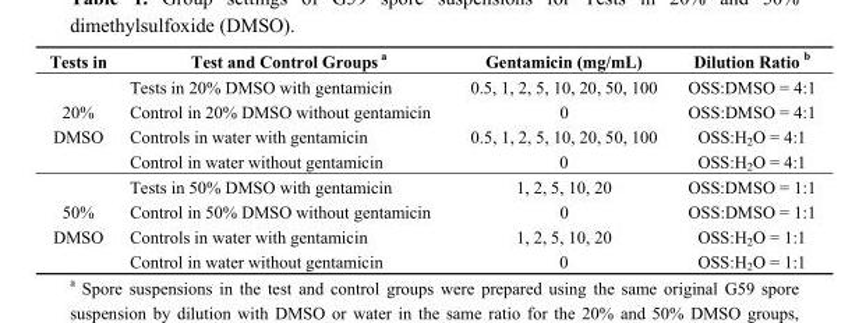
<table><thead><tr><td>Tests in</td><td>Test and Control Groups <sup>a</sup></td><td>Gentamicin (mg/mL)</td><td>Dilution Ratio <sup>b</sup></td></tr></thead><tbody><tr><td rowspan="4">20% DMSO</td><td>Tests in 20% DMSO with gentamicin</td><td>0.5, 1, 2, 5, 10, 20, 50, 100</td><td>OSS:DMSO = 4:1</td></tr><tr><td>Control in 20% DMSO without gentamicin</td><td>0</td><td>OSS:DMSO = 4:1</td></tr><tr><td>Controls in water with gentamicin</td><td>0.5, 1, 2, 5, 10, 20, 50, 100</td><td>OSS:H<sub>2</sub>O = 4:1</td></tr><tr><td>Control in water without gentamicin</td><td>0</td><td>OSS:H<sub>2</sub>O = 4:1</td></tr><tr><td rowspan="4">50% DMSO</td><td>Tests in 50% DMSO with gentamicin</td><td>1, 2, 5, 10, 20</td><td>OSS:DMSO = 1:1</td></tr><tr><td>Control in 50% DMSO without gentamicin</td><td>0</td><td>OSS:DMSO = 1:1</td></tr><tr><td>Controls in water with gentamicin</td><td>1, 2, 5, 10, 20</td><td>OSS:H<sub>2</sub>O = 1:1</td></tr><tr><td>Control in water without gentamicin</td><td>0</td><td>OSS:H<sub>2</sub>O = 1:1</td></tr></tbody></table>